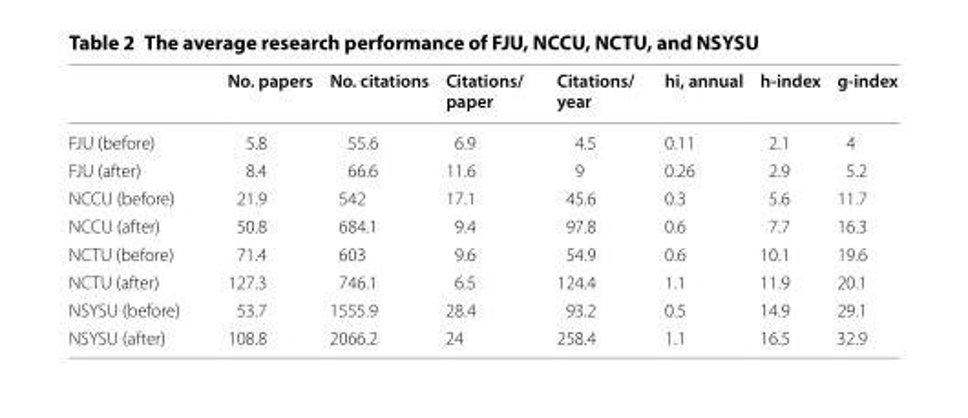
<table><thead><tr><td></td><td>No. papers</td><td>No. citations</td><td>Citations/ paper</td><td>Citations/ year</td><td>hi, annual</td><td>h-index</td><td>g-index</td></tr></thead><tbody><tr><td>FJU (before)</td><td>5.8</td><td>55.6</td><td>6.9</td><td>4.5</td><td>0.11</td><td>2.1</td><td>4</td></tr><tr><td>FJU (after)</td><td>8.4</td><td>66.6</td><td>11.6</td><td>9</td><td>0.26</td><td>2.9</td><td>5.2</td></tr><tr><td>NCCU (before)</td><td>21.9</td><td>542</td><td>17.1</td><td>45.6</td><td>0.3</td><td>5.6</td><td>11.7</td></tr><tr><td>NCCU (after)</td><td>50.8</td><td>684.1</td><td>9.4</td><td>97.8</td><td>0.6</td><td>7.7</td><td>16.3</td></tr><tr><td>NCTU (before)</td><td>71.4</td><td>603</td><td>9.6</td><td>54.9</td><td>0.6</td><td>10.1</td><td>19.6</td></tr><tr><td>NCTU (after)</td><td>127.3</td><td>746.1</td><td>6.5</td><td>124.4</td><td>1.1</td><td>11.9</td><td>20.1</td></tr><tr><td>NSYSU (before)</td><td>53.7</td><td>1555.9</td><td>28.4</td><td>93.2</td><td>0.5</td><td>14.9</td><td>29.1</td></tr><tr><td>NSYSU (after)</td><td>108.8</td><td>2066.2</td><td>24</td><td>258.4</td><td>1.1</td><td>16.5</td><td>32.9</td></tr></tbody></table>